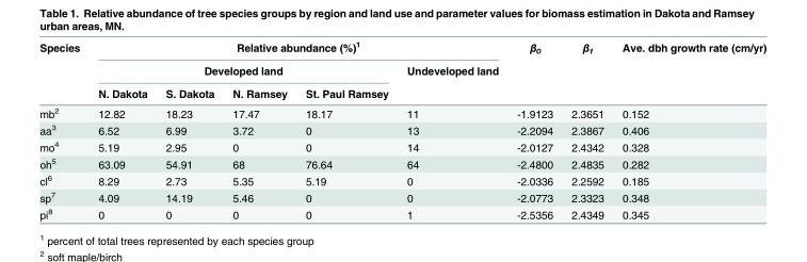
<table><thead><tr><td rowspan="3">Species</td><td colspan="5">Relative abundance (%)<sup>1</sup></td><td rowspan="3">β<sub>0</sub></td><td rowspan="3">β<sub>1</sub></td><td rowspan="3">Ave. dbh growth rate (cm/yr)</td></tr><tr><td colspan="4">Developed land</td><td rowspan="2">Undeveloped land</td></tr><tr><td>N. Dakota</td><td>S. Dakota</td><td>N. Ramsey</td><td>St. Paul Ramsey</td></tr></thead><tbody><tr><td>mb<sup>2</sup></td><td>12.82</td><td>18.23</td><td>17.47</td><td>18.17</td><td>11</td><td>-1.9123</td><td>2.3651</td><td>0.152</td></tr><tr><td>aa<sup>3</sup></td><td>6.52</td><td>6.99</td><td>3.72</td><td>0</td><td>13</td><td>-2.2094</td><td>2.3867</td><td>0.406</td></tr><tr><td>mo<sup>4</sup></td><td>5.19</td><td>2.95</td><td>0</td><td>0</td><td>14</td><td>-2.0127</td><td>2.4342</td><td>0.328</td></tr><tr><td>oh<sup>5</sup></td><td>63.09</td><td>54.91</td><td>68</td><td>76.64</td><td>64</td><td>-2.4800</td><td>2.4835</td><td>0.282</td></tr><tr><td>cl<sup>6</sup></td><td>8.29</td><td>2.73</td><td>5.35</td><td>5.19</td><td>0</td><td>-2.0336</td><td>2.2592</td><td>0.185</td></tr><tr><td>sp<sup>7</sup></td><td>4.09</td><td>14.19</td><td>5.46</td><td>0</td><td>0</td><td>-2.0773</td><td>2.3323</td><td>0.348</td></tr><tr><td>pi<sup>8</sup></td><td>0</td><td>0</td><td>0</td><td>0</td><td>1</td><td>-2.5356</td><td>2.4349</td><td>0.345</td></tr></tbody></table>